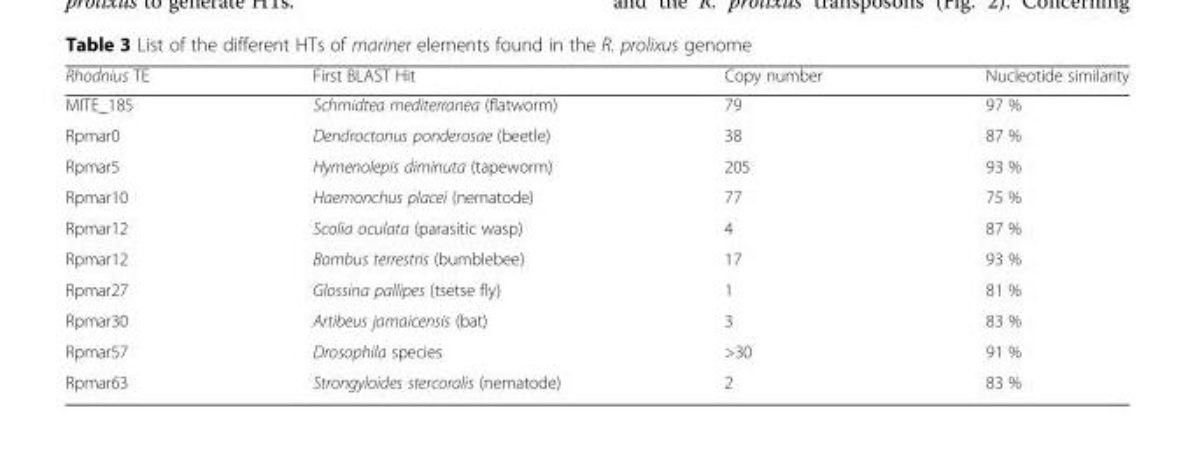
<table><thead><tr><td>Rhodnius TE</td><td>First BLAST Hit</td><td>Copy number</td><td>Nucleotide similarity</td></tr></thead><tbody><tr><td>MITE_185</td><td>Schmidtea mediterranea (flatworm)</td><td>79</td><td>97 %</td></tr><tr><td>Rpmar0</td><td>Dendroctonus ponderosae (beetle)</td><td>38</td><td>87 %</td></tr><tr><td>Rpmar5</td><td>Hymenolepis diminuta (tapeworm)</td><td>205</td><td>93 %</td></tr><tr><td>Rpmar10</td><td>Haemonchus placei (nematode)</td><td>77</td><td>75 %</td></tr><tr><td>Rpmar12</td><td>Scolia oculata (parasitic wasp)</td><td>4</td><td>87 %</td></tr><tr><td>Rpmar12</td><td>Bombus terrestris (bumblebee)</td><td>17</td><td>93 %</td></tr><tr><td>Rpmar27</td><td>Glossina pallipes (tsetse fly)</td><td>1</td><td>81 %</td></tr><tr><td>Rpmar30</td><td>Artibeus jamaicensis (bat)</td><td>3</td><td>83 %</td></tr><tr><td>Rpmar57</td><td>Drosophila species</td><td>&gt;30</td><td>91 %</td></tr><tr><td>Rpmar63</td><td>Strongyloides stercoralis (nematode)</td><td>2</td><td>83 %</td></tr></tbody></table>